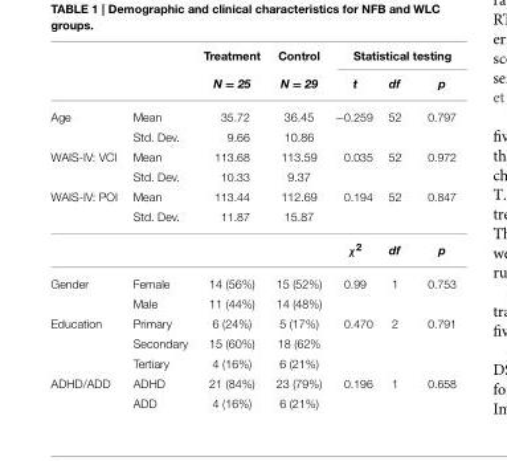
<table><thead><tr><td rowspan="2"></td><td rowspan="2"></td><td rowspan="2">Treatment N = 25</td><td rowspan="2">Control N = 29</td><td colspan="3">Statistical testing</td></tr><tr><td>t</td><td>df</td><td>p</td></tr></thead><tbody><tr><td rowspan="2">Age</td><td>Mean</td><td>35.72</td><td>36.45</td><td>−0.259</td><td>52</td><td>0.797</td></tr><tr><td>Std. Dev.</td><td>9.66</td><td>10.86</td><td></td><td></td><td></td></tr><tr><td rowspan="2">WAIS-IV: VCI</td><td>Mean</td><td>113.68</td><td>113.59</td><td>0.035</td><td>52</td><td>0.972</td></tr><tr><td>Std. Dev.</td><td>10.33</td><td>9.37</td><td></td><td></td><td></td></tr><tr><td rowspan="3">WAIS-IV: POI</td><td>Mean</td><td>113.44</td><td>112.69</td><td>0.194</td><td>52</td><td>0.847</td></tr><tr><td>Std. Dev.</td><td>11.87</td><td>15.87</td><td></td><td></td><td></td></tr><tr><td></td><td></td><td></td><td>χ<sup>2</sup></td><td>df</td><td>p</td></tr><tr><td rowspan="2">Gender</td><td>Female</td><td>14 (56%)</td><td>15 (52%)</td><td>0.99</td><td>1</td><td>0.753</td></tr><tr><td>Male</td><td>11 (44%)</td><td>14 (48%)</td><td></td><td></td><td></td></tr><tr><td rowspan="3">Education</td><td>Primary</td><td>6 (24%)</td><td>5 (17%)</td><td>0.470</td><td>2</td><td>0.791</td></tr><tr><td>Secondary</td><td>15 (60%)</td><td>18 (62%</td><td></td><td></td><td></td></tr><tr><td>Tertiary</td><td>4 (16%)</td><td>6 (21%)</td><td></td><td></td><td></td></tr><tr><td rowspan="2">ADHD/ADD</td><td>ADHD</td><td>21 (84%)</td><td>23 (79%)</td><td>0.196</td><td>1</td><td>0.658</td></tr><tr><td>ADD</td><td>4 (16%)</td><td>6 (21%)</td><td></td><td></td><td></td></tr></tbody></table>